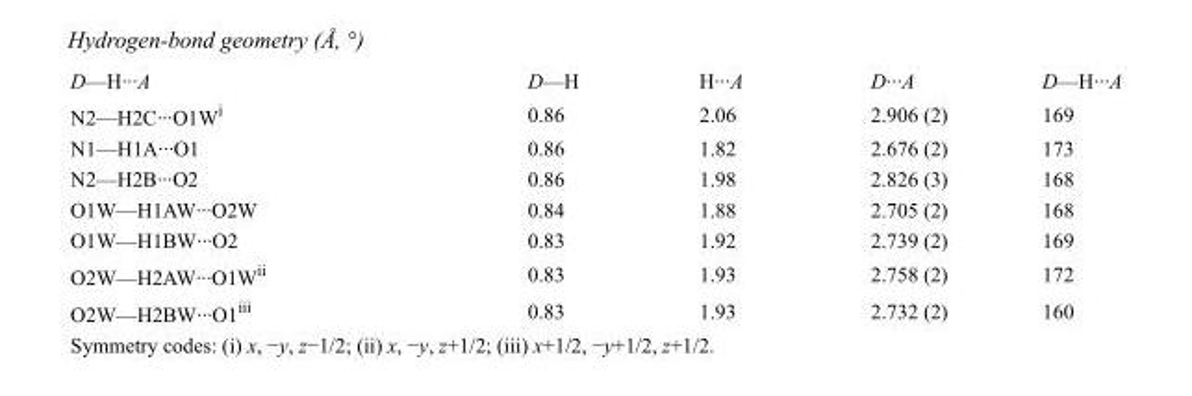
<table><tbody><tr><td>D—H···A</td><td>D—H</td><td>H···A</td><td>D···A</td><td>D—H···A</td></tr><tr><td>N2—H2C···O1W<sup>i</sup></td><td>0.86</td><td>2.06</td><td>2.906 (2)</td><td>169</td></tr><tr><td>N1—H1A···O1</td><td>0.86</td><td>1.82</td><td>2.676 (2)</td><td>173</td></tr><tr><td>N2—H2B···O2</td><td>0.86</td><td>1.98</td><td>2.826 (3)</td><td>168</td></tr><tr><td>O1W—H1AW···O2W</td><td>0.84</td><td>1.88</td><td>2.705 (2)</td><td>168</td></tr><tr><td>O1W—H1BW···O2</td><td>0.83</td><td>1.92</td><td>2.739 (2)</td><td>169</td></tr><tr><td>O2W—H2AW···O1W<sup>ii</sup></td><td>0.83</td><td>1.93</td><td>2.758 (2)</td><td>172</td></tr><tr><td>O2W—H2BW···O1<sup>iii</sup></td><td>0.83</td><td>1.93</td><td>2.732 (2)</td><td>160</td></tr></tbody></table>